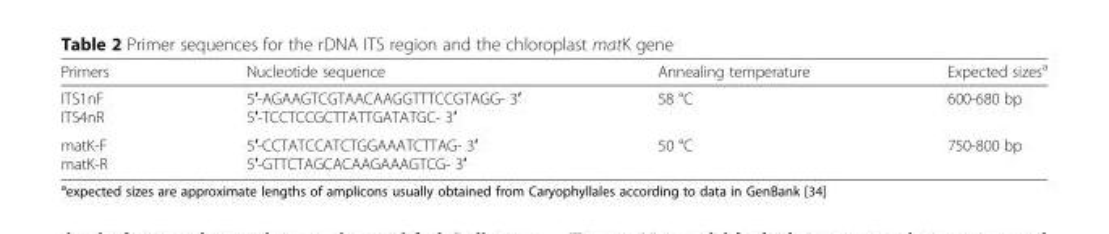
<table><thead><tr><td>Primers</td><td>Nucleotide sequence</td><td>Annealing temperature</td><td>Expected sizes<sup>a</sup></td></tr></thead><tbody><tr><td>ITS1nF ITS4nR</td><td>5′-AGAAGTCGTAACAAGGTTTCCGTAGG- 3′ 5′-TCCTCCGCTTATTGATATGC- 3′</td><td>58 °C</td><td>600-680 bp</td></tr><tr><td>matK-F matK-R</td><td>5′-CCTATCCATCTGGAAATCTTAG- 3′ 5′-GTTCTAGCACAAGAAAGTCG- 3′</td><td>50 °C</td><td>750-800 bp</td></tr></tbody></table>